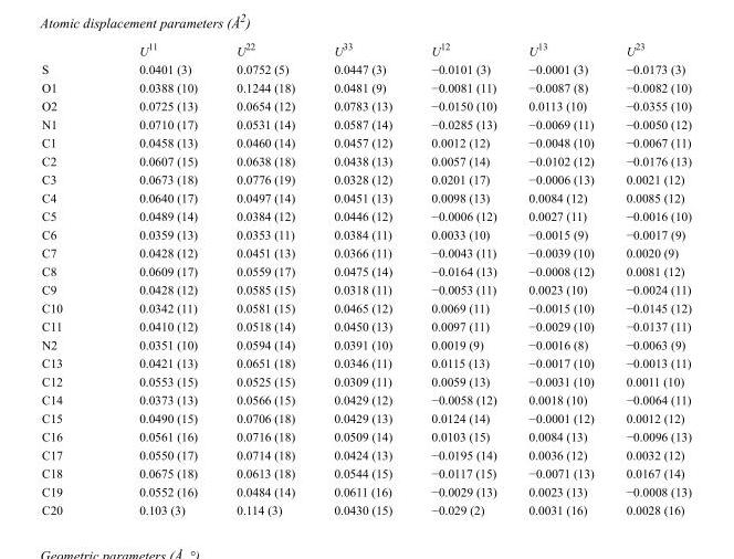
<table><thead><tr><td></td><td>U<sup>11</sup></td><td>U<sup>22</sup></td><td>U<sup>33</sup></td><td>U<sup>12</sup></td><td>U<sup>13</sup></td><td>U<sup>23</sup></td></tr></thead><tbody><tr><td>S</td><td>0.0401 (3)</td><td>0.0752 (5)</td><td>0.0447 (3)</td><td>−0.0101 (3)</td><td>−0.0001 (3)</td><td>−0.0173 (3)</td></tr><tr><td>O1</td><td>0.0388 (10)</td><td>0.1244 (18)</td><td>0.0481 (9)</td><td>−0.0081 (11)</td><td>−0.0087 (8)</td><td>−0.0082 (10)</td></tr><tr><td>O2</td><td>0.0725 (13)</td><td>0.0654 (12)</td><td>0.0783 (13)</td><td>−0.0150 (10)</td><td>0.0113 (10)</td><td>−0.0355 (10)</td></tr><tr><td>N1</td><td>0.0710 (17)</td><td>0.0531 (14)</td><td>0.0587 (14)</td><td>−0.0285 (13)</td><td>−0.0069 (11)</td><td>−0.0050 (12)</td></tr><tr><td>C1</td><td>0.0458 (13)</td><td>0.0460 (14)</td><td>0.0457 (12)</td><td>0.0012 (12)</td><td>−0.0048 (10)</td><td>−0.0067 (11)</td></tr><tr><td>C2</td><td>0.0607 (15)</td><td>0.0638 (18)</td><td>0.0438 (13)</td><td>0.0057 (14)</td><td>−0.0102 (12)</td><td>−0.0176 (13)</td></tr><tr><td>C3</td><td>0.0673 (18)</td><td>0.0776 (19)</td><td>0.0328 (12)</td><td>0.0201 (17)</td><td>−0.0006 (13)</td><td>0.0021 (12)</td></tr><tr><td>C4</td><td>0.0640 (17)</td><td>0.0497 (14)</td><td>0.0451 (13)</td><td>0.0098 (13)</td><td>0.0084 (12)</td><td>0.0085 (12)</td></tr><tr><td>C5</td><td>0.0489 (14)</td><td>0.0384 (12)</td><td>0.0446 (12)</td><td>−0.0006 (12)</td><td>0.0027 (11)</td><td>−0.0016 (10)</td></tr><tr><td>C6</td><td>0.0359 (13)</td><td>0.0353 (11)</td><td>0.0384 (11)</td><td>0.0033 (10)</td><td>−0.0015 (9)</td><td>−0.0017 (9)</td></tr><tr><td>C7</td><td>0.0428 (12)</td><td>0.0451 (13)</td><td>0.0366 (11)</td><td>−0.0043 (11)</td><td>−0.0039 (10)</td><td>0.0020 (9)</td></tr><tr><td>C8</td><td>0.0609 (17)</td><td>0.0559 (17)</td><td>0.0475 (14)</td><td>−0.0164 (13)</td><td>−0.0008 (12)</td><td>0.0081 (12)</td></tr><tr><td>C9</td><td>0.0428 (12)</td><td>0.0585 (15)</td><td>0.0318 (11)</td><td>−0.0053 (11)</td><td>0.0023 (10)</td><td>−0.0024 (11)</td></tr><tr><td>C10</td><td>0.0342 (11)</td><td>0.0581 (15)</td><td>0.0465 (12)</td><td>0.0069 (11)</td><td>−0.0015 (10)</td><td>−0.0145 (12)</td></tr><tr><td>C11</td><td>0.0410 (12)</td><td>0.0518 (14)</td><td>0.0450 (13)</td><td>0.0097 (11)</td><td>−0.0029 (10)</td><td>−0.0137 (11)</td></tr><tr><td>N2</td><td>0.0351 (10)</td><td>0.0594 (14)</td><td>0.0391 (10)</td><td>0.0019 (9)</td><td>−0.0016 (8)</td><td>−0.0063 (9)</td></tr><tr><td>C13</td><td>0.0421 (13)</td><td>0.0651 (18)</td><td>0.0346 (11)</td><td>0.0115 (13)</td><td>−0.0017 (10)</td><td>−0.0013 (11)</td></tr><tr><td>C12</td><td>0.0553 (15)</td><td>0.0525 (15)</td><td>0.0309 (11)</td><td>0.0059 (13)</td><td>−0.0031 (10)</td><td>0.0011 (10)</td></tr><tr><td>C14</td><td>0.0373 (13)</td><td>0.0566 (15)</td><td>0.0429 (12)</td><td>−0.0058 (12)</td><td>0.0018 (10)</td><td>−0.0064 (11)</td></tr><tr><td>C15</td><td>0.0490 (15)</td><td>0.0706 (18)</td><td>0.0429 (13)</td><td>0.0124 (14)</td><td>−0.0001 (12)</td><td>0.0012 (12)</td></tr><tr><td>C16</td><td>0.0561 (16)</td><td>0.0716 (18)</td><td>0.0509 (14)</td><td>0.0103 (15)</td><td>0.0084 (13)</td><td>−0.0096 (13)</td></tr><tr><td>C17</td><td>0.0550 (17)</td><td>0.0714 (18)</td><td>0.0424 (13)</td><td>−0.0195 (14)</td><td>0.0036 (12)</td><td>0.0032 (12)</td></tr><tr><td>C18</td><td>0.0675 (18)</td><td>0.0613 (18)</td><td>0.0544 (15)</td><td>−0.0117 (15)</td><td>−0.0071 (13)</td><td>0.0167 (14)</td></tr><tr><td>C19</td><td>0.0552 (16)</td><td>0.0484 (14)</td><td>0.0611 (16)</td><td>−0.0029 (13)</td><td>0.0023 (13)</td><td>−0.0008 (13)</td></tr><tr><td>C20</td><td>0.103 (3)</td><td>0.114 (3)</td><td>0.0430 (15)</td><td>−0.029 (2)</td><td>0.0031 (16)</td><td>0.0028 (16)</td></tr></tbody></table>